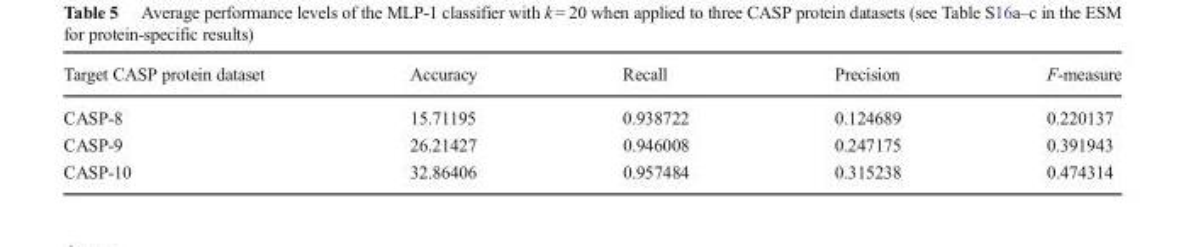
<table><thead><tr><td>Target CASP protein dataset</td><td>Accuracy</td><td>Recall</td><td>Precision</td><td>F-measure</td></tr></thead><tbody><tr><td>CASP-8</td><td>15.71195</td><td>0.938722</td><td>0.124689</td><td>0.220137</td></tr><tr><td>CASP-9</td><td>26.21427</td><td>0.946008</td><td>0.247175</td><td>0.391943</td></tr><tr><td>CASP-10</td><td>32.86406</td><td>0.957484</td><td>0.315238</td><td>0.474314</td></tr></tbody></table>